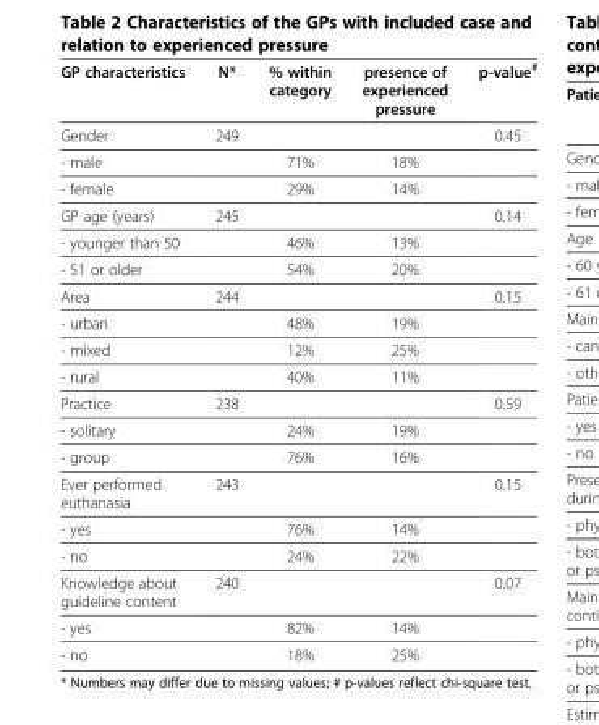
<table><thead><tr><td>GP characteristics</td><td>N*</td><td>% within category</td><td>presence of experienced pressure</td><td>p-value<sup>#</sup></td></tr></thead><tbody><tr><td>Gender</td><td>249</td><td></td><td></td><td>0.45</td></tr><tr><td>- male</td><td></td><td>71%</td><td>18%</td><td></td></tr><tr><td>- female</td><td></td><td>29%</td><td>14%</td><td></td></tr><tr><td>GP age (years)</td><td>245</td><td></td><td></td><td>0.14</td></tr><tr><td>- younger than 50</td><td></td><td>46%</td><td>13%</td><td></td></tr><tr><td>- 51 or older</td><td></td><td>54%</td><td>20%</td><td></td></tr><tr><td>Area</td><td>244</td><td></td><td></td><td>0.15</td></tr><tr><td>- urban</td><td></td><td>48%</td><td>19%</td><td></td></tr><tr><td>- mixed</td><td></td><td>12%</td><td>25%</td><td></td></tr><tr><td>- rural</td><td></td><td>40%</td><td>11%</td><td></td></tr><tr><td>Practice</td><td>238</td><td></td><td></td><td>0.59</td></tr><tr><td>- solitary</td><td></td><td>24%</td><td>19%</td><td></td></tr><tr><td>- group</td><td></td><td>76%</td><td>16%</td><td></td></tr><tr><td>Ever performed euthanasia</td><td>243</td><td></td><td></td><td>0.15</td></tr><tr><td>- yes</td><td></td><td>76%</td><td>14%</td><td></td></tr><tr><td>- no</td><td></td><td>24%</td><td>22%</td><td></td></tr><tr><td>Knowledge about guideline content</td><td>240</td><td></td><td></td><td>0.07</td></tr><tr><td>- yes</td><td></td><td>82%</td><td>14%</td><td></td></tr><tr><td>- no</td><td></td><td>18%</td><td>25%</td><td></td></tr></tbody></table>